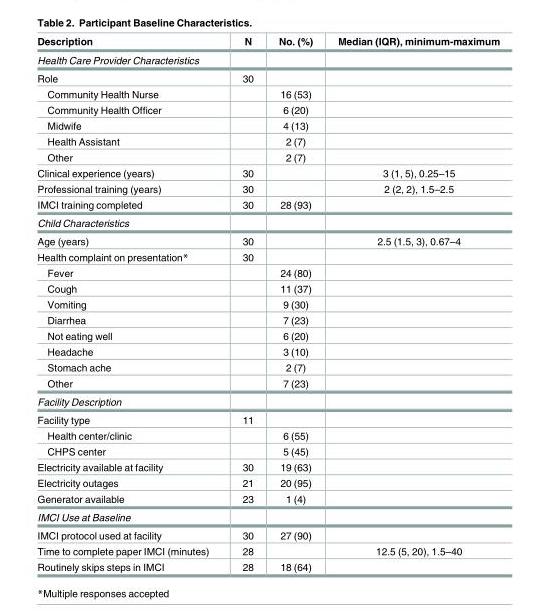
<table><thead><tr><td>Description</td><td>N</td><td>No. (%)</td><td>Median (IQR), minimum-maximum</td></tr></thead><tbody><tr><td colspan="4">Health Care Provider Characteristics</td></tr><tr><td>Role</td><td>30</td><td></td><td></td></tr><tr><td>Community Health Nurse</td><td></td><td>16 (53)</td><td></td></tr><tr><td>Community Health Officer</td><td></td><td>6 (20)</td><td></td></tr><tr><td>Midwife</td><td></td><td>4 (13)</td><td></td></tr><tr><td>Health Assistant</td><td></td><td>2 (7)</td><td></td></tr><tr><td>Other</td><td></td><td>2 (7)</td><td></td></tr><tr><td>Clinical experience (years)</td><td>30</td><td></td><td>3 (1, 5), 0.25–15</td></tr><tr><td>Professional training (years)</td><td>30</td><td></td><td>2 (2, 2), 1.5–2.5</td></tr><tr><td>IMCI training completed</td><td>30</td><td>28 (93)</td><td></td></tr><tr><td colspan="4">Child Characteristics</td></tr><tr><td>Age (years)</td><td>30</td><td></td><td>2.5 (1.5, 3), 0.67–4</td></tr><tr><td>Health complaint on presentation*</td><td>30</td><td></td><td></td></tr><tr><td>Fever</td><td></td><td>24 (80)</td><td></td></tr><tr><td>Cough</td><td></td><td>11 (37)</td><td></td></tr><tr><td>Vomiting</td><td></td><td>9 (30)</td><td></td></tr><tr><td>Diarrhea</td><td></td><td>7 (23)</td><td></td></tr><tr><td>Not eating well</td><td></td><td>6 (20)</td><td></td></tr><tr><td>Headache</td><td></td><td>3 (10)</td><td></td></tr><tr><td>Stomach ache</td><td></td><td>2 (7)</td><td></td></tr><tr><td>Other</td><td></td><td>7 (23)</td><td></td></tr><tr><td colspan="4">Facility Description</td></tr><tr><td>Facility type</td><td>11</td><td></td><td></td></tr><tr><td>Health center/clinic</td><td></td><td>6 (55)</td><td></td></tr><tr><td>CHPS center</td><td></td><td>5 (45)</td><td></td></tr><tr><td>Electricity available at facility</td><td>30</td><td>19 (63)</td><td></td></tr><tr><td>Electricity outages</td><td>21</td><td>20 (95)</td><td></td></tr><tr><td>Generator available</td><td>23</td><td>1 (4)</td><td></td></tr><tr><td colspan="4">IMCI Use at Baseline</td></tr><tr><td>IMCI protocol used at facility</td><td>30</td><td>27 (90)</td><td></td></tr><tr><td>Time to complete paper IMCI (minutes)</td><td>28</td><td></td><td>12.5 (5, 20), 1.5–40</td></tr><tr><td>Routinely skips steps in IMCI</td><td>28</td><td>18 (64)</td><td></td></tr></tbody></table>